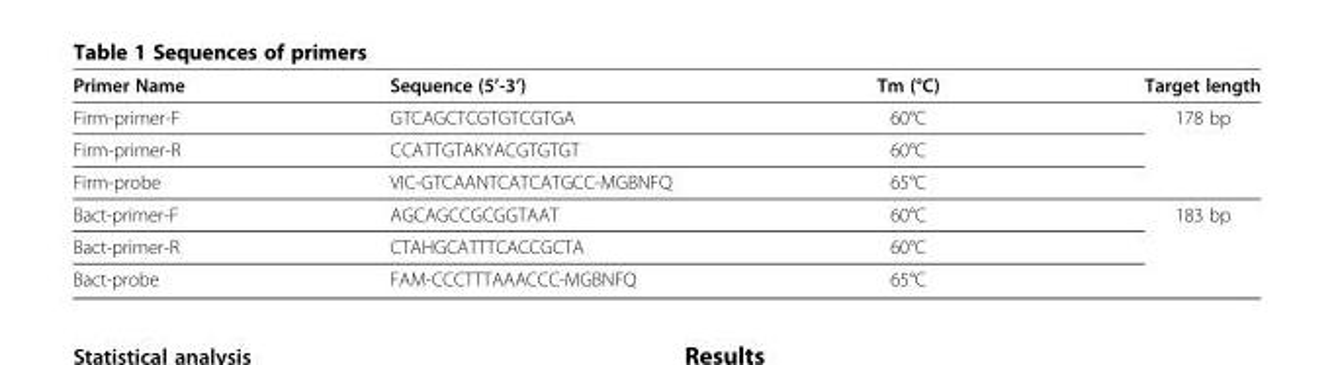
<table><thead><tr><td>Primer Name</td><td>Sequence (5’-3’)</td><td>Tm (°C)</td><td>Target length</td></tr></thead><tbody><tr><td>Firm-primer-F</td><td>GTCAGCTCGTGTCGTGA</td><td>60°C</td><td>178 bp</td></tr><tr><td>Firm-primer-R</td><td>CCATTGTAKYACGTGTGT</td><td>60°C</td><td></td></tr><tr><td>Firm-probe</td><td>VIC-GTCAANTCATCATGCC-MGBNFQ</td><td>65°C</td><td></td></tr><tr><td>Bact-primer-F</td><td>AGCAGCCGCGGTAAT</td><td>60°C</td><td>183 bp</td></tr><tr><td>Bact-primer-R</td><td>CTAHGCATTTCACCGCTA</td><td>60°C</td><td></td></tr><tr><td>Bact-probe</td><td>FAM-CCCTTTAAACCC-MGBNFQ</td><td>65°C</td><td></td></tr></tbody></table>